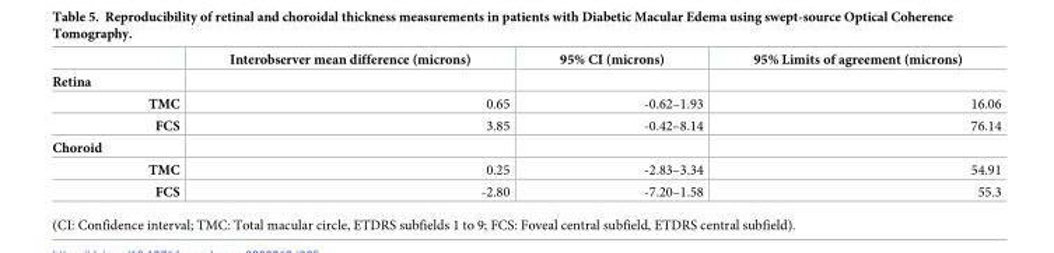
<table><thead><tr><td></td><td>Interobserver mean difference (microns)</td><td>95% CI (microns)</td><td>95% Limits of agreement (microns)</td></tr></thead><tbody><tr><td colspan="4">Retina</td></tr><tr><td>TMC</td><td>0.65</td><td>-0.62–1.93</td><td>16.06</td></tr><tr><td>FCS</td><td>3.85</td><td>-0.42–8.14</td><td>76.14</td></tr><tr><td colspan="4">Choroid</td></tr><tr><td>TMC</td><td>0.25</td><td>-2.83–3.34</td><td>54.91</td></tr><tr><td>FCS</td><td>-2.80</td><td>-7.20–1.58</td><td>55.3</td></tr></tbody></table>